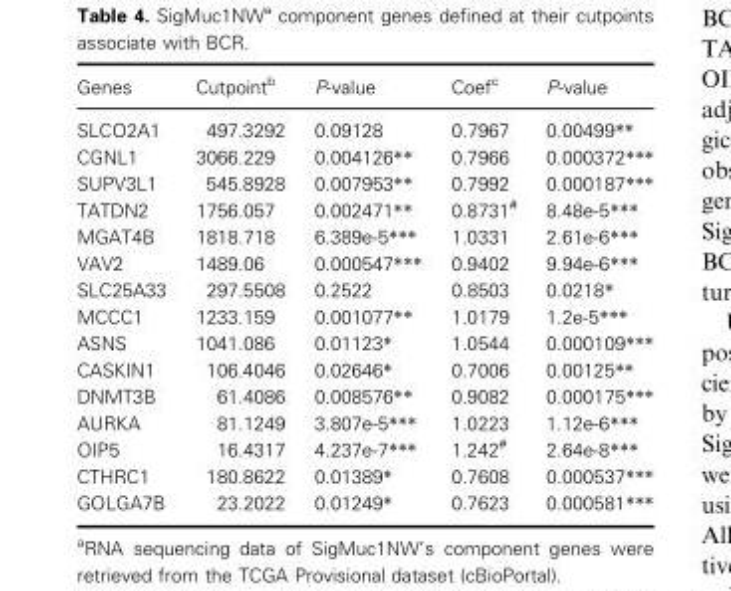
<table><thead><tr><td>Genes</td><td>Cutpoint<sup>b</sup></td><td>P-value</td><td>Coef<sup>c</sup></td><td>P-value</td></tr></thead><tbody><tr><td>SLCO2A1</td><td>497.3292</td><td>0.09128</td><td>0.7967</td><td>0.00499**</td></tr><tr><td>CGNL1</td><td>3066.229</td><td>0.004126**</td><td>0.7966</td><td>0.000372***</td></tr><tr><td>SUPV3L1</td><td>545.8928</td><td>0.007953**</td><td>0.7992</td><td>0.000187***</td></tr><tr><td>TATDN2</td><td>1756.057</td><td>0.002471**</td><td>0.8731#</td><td>8.48e-5***</td></tr><tr><td>MGAT4B</td><td>1818.718</td><td>6.389e-5***</td><td>1.0331</td><td>2.61e-6***</td></tr><tr><td>VAV2</td><td>1489.06</td><td>0.000547***</td><td>0.9402</td><td>9.94e-6***</td></tr><tr><td>SLC25A33</td><td>297.5508</td><td>0.2522</td><td>0.8503</td><td>0.0218*</td></tr><tr><td>MCCC1</td><td>1233.159</td><td>0.001077**</td><td>1.0179</td><td>1.2e-5***</td></tr><tr><td>ASNS</td><td>1041.086</td><td>0.01123*</td><td>1.0544</td><td>0.000109***</td></tr><tr><td>CASKIN1</td><td>106.4046</td><td>0.02646*</td><td>0.7006</td><td>0.00125**</td></tr><tr><td>DNMT3B</td><td>61.4086</td><td>0.008576**</td><td>0.9082</td><td>0.000175***</td></tr><tr><td>AURKA</td><td>81.1249</td><td>3.807e-5***</td><td>1.0223</td><td>1.12e-6***</td></tr><tr><td>OIP5</td><td>16.4317</td><td>4.237e-7***</td><td>1.242#</td><td>2.64e-8***</td></tr><tr><td>CTHRC1</td><td>180.8622</td><td>0.01389*</td><td>0.7608</td><td>0.000537***</td></tr><tr><td>GOLGA7B</td><td>23.2022</td><td>0.01249*</td><td>0.7623</td><td>0.000581***</td></tr></tbody></table>